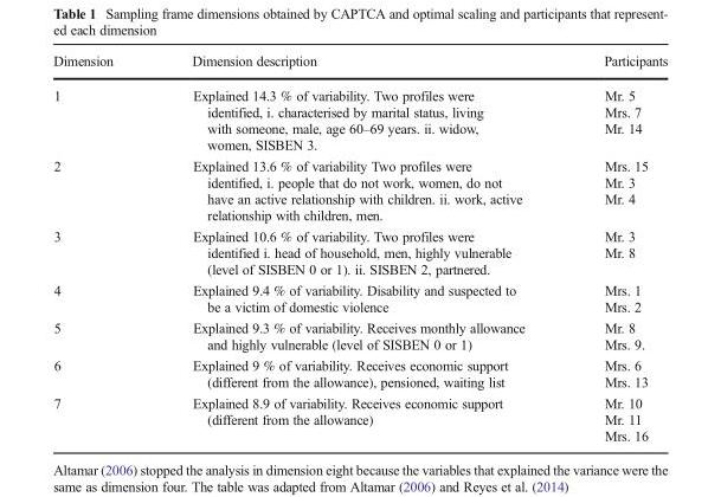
<table><thead><tr><td>Dimension</td><td>Dimension description</td><td>Participants</td></tr></thead><tbody><tr><td>1</td><td>Explained 14.3 % of variability. Two profiles were identified, i. characterised by marital status, living with someone, male, age 60–69 years. ii. widow, women, SISBEN 3.</td><td>Mr. 5 Mrs. 7 Mr. 14</td></tr><tr><td>2</td><td>Explained 13.6 % of variability Two profiles were identified, i. people that do not work, women, do not have an active relationship with children. ii. work, active relationship with children, men.</td><td>Mrs. 15 Mr. 3 Mr. 4</td></tr><tr><td>3</td><td>Explained 10.6 % of variability. Two profiles were identified i. head of household, men, highly vulnerable (level of SISBEN 0 or 1). ii. SISBEN 2, partnered.</td><td>Mr. 3 Mr. 8</td></tr><tr><td>4</td><td>Explained 9.4 % of variability. Disability and suspected to be a victim of domestic violence</td><td>Mrs. 1 Mrs. 2</td></tr><tr><td>5</td><td>Explained 9.3 % of variability. Receives monthly allowance and highly vulnerable (level of SISBEN 0 or 1)</td><td>Mr. 8 Mrs. 9.</td></tr><tr><td>6</td><td>Explained 9 % of variability. Receives economic support (different from the allowance), pensioned, waiting list</td><td>Mrs. 6 Mrs. 13</td></tr><tr><td>7</td><td>Explained 8.9 of variability. Receives economic support (different from the allowance)</td><td>Mr. 10 Mr. 11 Mrs. 16</td></tr></tbody></table>